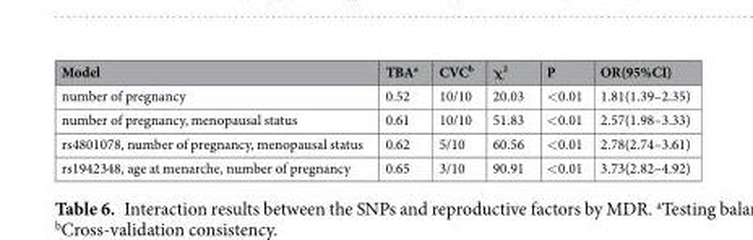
<table><thead><tr><td>Model</td><td>TBA<sup>a</sup></td><td>CVC<sup>b</sup></td><td>χ<sup>2</sup></td><td>P</td><td>OR(95%CI)</td></tr></thead><tbody><tr><td>number of pregnancy</td><td>0.52</td><td>10/10</td><td>20.03</td><td>&lt;0.01</td><td>1.81(1.39–2.35)</td></tr><tr><td>number of pregnancy, menopausal status</td><td>0.61</td><td>10/10</td><td>51.83</td><td>&lt;0.01</td><td>2.57(1.98–3.33)</td></tr><tr><td>rs4801078, number of pregnancy, menopausal status</td><td>0.62</td><td>5/10</td><td>60.56</td><td>&lt;0.01</td><td>2.78(2.74–3.61)</td></tr><tr><td>rs1942348, age at menarche, number of pregnancy</td><td>0.65</td><td>3/10</td><td>90.91</td><td>&lt;0.01</td><td>3.73(2.82–4.92)</td></tr></tbody></table>